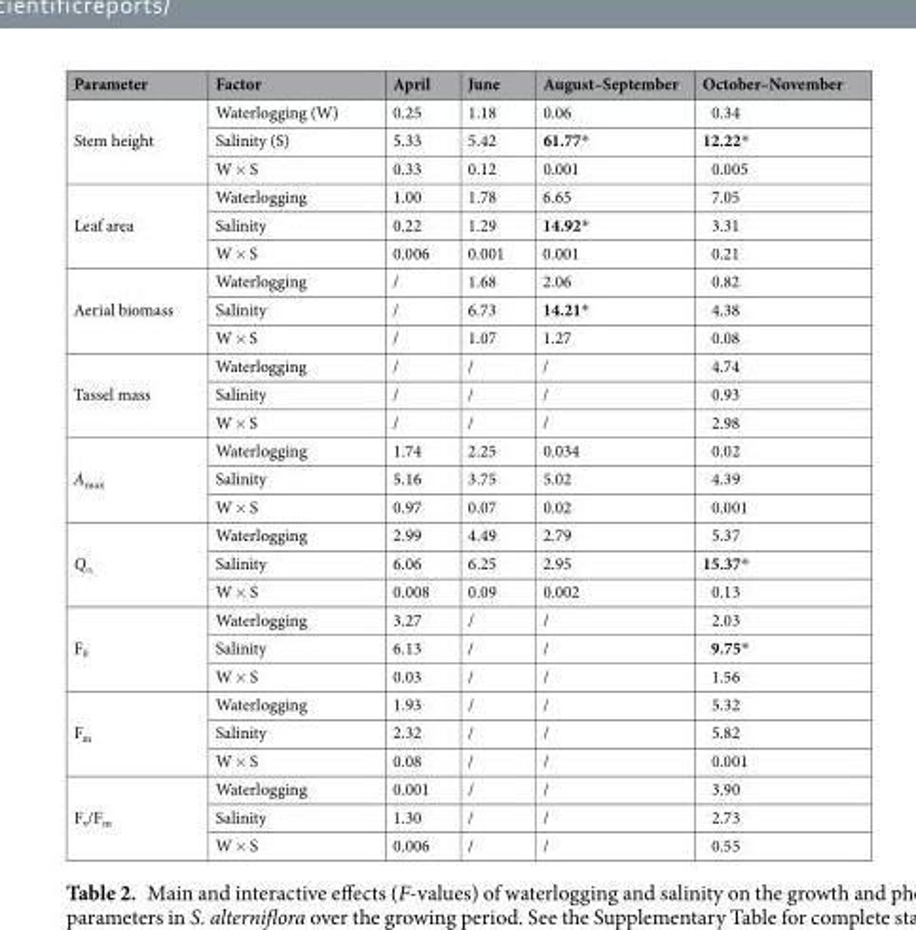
<table><thead><tr><td>Parameter</td><td>Factor</td><td>April</td><td>June</td><td>August–September</td><td>October–November</td></tr></thead><tbody><tr><td rowspan="3">Stem height</td><td>Waterlogging (W)</td><td>0.25</td><td>1.18</td><td>0.06</td><td>0.34</td></tr><tr><td>Salinity (S)</td><td>5.33</td><td>5.42</td><td>61.77*</td><td>12.22*</td></tr><tr><td>W × S</td><td>0.33</td><td>0.12</td><td>0.001</td><td>0.005</td></tr><tr><td rowspan="3">Leaf area</td><td>Waterlogging</td><td>1.00</td><td>1.78</td><td>6.65</td><td>7.05</td></tr><tr><td>Salinity</td><td>0.22</td><td>1.29</td><td>14.92*</td><td>3.31</td></tr><tr><td>W × S</td><td>0.006</td><td>0.001</td><td>0.001</td><td>0.21</td></tr><tr><td rowspan="3">Aerial biomass</td><td>Waterlogging</td><td>/</td><td>1.68</td><td>2.06</td><td>0.82</td></tr><tr><td>Salinity</td><td>/</td><td>6.73</td><td>14.21*</td><td>4.38</td></tr><tr><td>W × S</td><td>/</td><td>1.07</td><td>1.27</td><td>0.08</td></tr><tr><td rowspan="3">Tassel mass</td><td>Waterlogging</td><td>/</td><td>/</td><td>/</td><td>4.74</td></tr><tr><td>Salinity</td><td>/</td><td>/</td><td>/</td><td>0.93</td></tr><tr><td>W × S</td><td>/</td><td>/</td><td>/</td><td>2.98</td></tr><tr><td rowspan="3">A<sub>max</sub></td><td>Waterlogging</td><td>1.74</td><td>2.25</td><td>0.034</td><td>0.02</td></tr><tr><td>Salinity</td><td>5.16</td><td>3.75</td><td>5.02</td><td>4.39</td></tr><tr><td>W × S</td><td>0.97</td><td>0.07</td><td>0.02</td><td>0.001</td></tr><tr><td rowspan="3">Q<sub>α</sub></td><td>Waterlogging</td><td>2.99</td><td>4.49</td><td>2.79</td><td>5.37</td></tr><tr><td>Salinity</td><td>6.06</td><td>6.25</td><td>2.95</td><td>15.37*</td></tr><tr><td>W × S</td><td>0.008</td><td>0.09</td><td>0.002</td><td>0.13</td></tr><tr><td rowspan="3">F<sub>0</sub></td><td>Waterlogging</td><td>3.27</td><td>/</td><td>/</td><td>2.03</td></tr><tr><td>Salinity</td><td>6.13</td><td>/</td><td>/</td><td>9.75*</td></tr><tr><td>W × S</td><td>0.03</td><td>/</td><td>/</td><td>1.56</td></tr><tr><td rowspan="3">F<sub>m</sub></td><td>Waterlogging</td><td>1.93</td><td>/</td><td>/</td><td>5.32</td></tr><tr><td>Salinity</td><td>2.32</td><td>/</td><td>/</td><td>5.82</td></tr><tr><td>W × S</td><td>0.08</td><td>/</td><td>/</td><td>0.001</td></tr><tr><td rowspan="3">F<sub>v</sub>/F<sub>m</sub></td><td>Waterlogging</td><td>0.001</td><td>/</td><td>/</td><td>3.90</td></tr><tr><td>Salinity</td><td>1.30</td><td>/</td><td>/</td><td>2.73</td></tr><tr><td>W × S</td><td>0.006</td><td>/</td><td>/</td><td>0.55</td></tr></tbody></table>